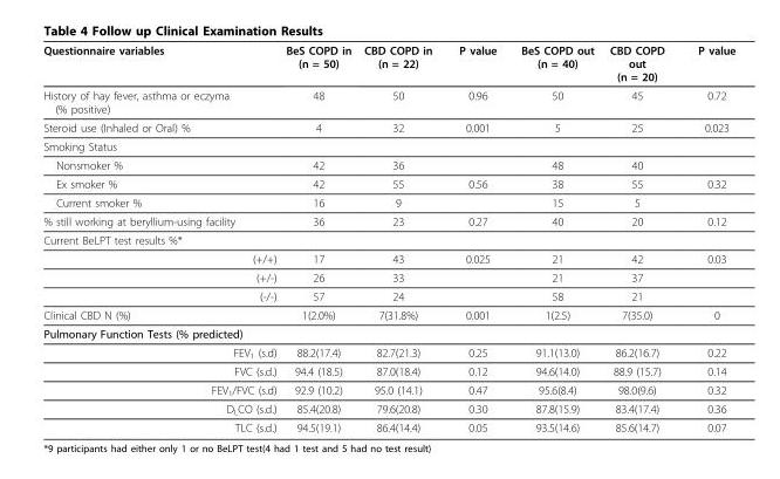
<table><thead><tr><td>Questionnaire variables</td><td>BeS COPD in (n = 50)</td><td>CBD COPD in (n = 22)</td><td>P value</td><td>BeS COPD out (n = 40)</td><td>CBD COPD out (n = 20)</td><td>P value</td></tr></thead><tbody><tr><td>History of hay fever, asthma or eczyma (% positive)</td><td>48</td><td>50</td><td>0.96</td><td>50</td><td>45</td><td>0.72</td></tr><tr><td>Steroid use (Inhaled or Oral) %</td><td>4</td><td>32</td><td>0.001</td><td>5</td><td>25</td><td>0.023</td></tr><tr><td colspan="7">Smoking Status</td></tr><tr><td>Nonsmoker %</td><td>42</td><td>36</td><td></td><td>48</td><td>40</td><td></td></tr><tr><td>Ex smoker %</td><td>42</td><td>55</td><td>0.56</td><td>38</td><td>55</td><td>0.32</td></tr><tr><td>Current smoker %</td><td>16</td><td>9</td><td></td><td>15</td><td>5</td><td></td></tr><tr><td>% still working at beryllium-using facility</td><td>36</td><td>23</td><td>0.27</td><td>40</td><td>20</td><td>0.12</td></tr><tr><td colspan="7">Current BeLPT test results %*</td></tr><tr><td>(+/+)</td><td>17</td><td>43</td><td>0.025</td><td>21</td><td>42</td><td>0.03</td></tr><tr><td>(+/-)</td><td>26</td><td>33</td><td></td><td>21</td><td>37</td><td></td></tr><tr><td>(-/-)</td><td>57</td><td>24</td><td></td><td>58</td><td>21</td><td></td></tr><tr><td>Clinical CBD N (%)</td><td>1(2.0%)</td><td>7(31.8%)</td><td>0.001</td><td>1(2.5)</td><td>7(35.0)</td><td>0</td></tr><tr><td colspan="7">Pulmonary Function Tests (% predicted)</td></tr><tr><td>FEV<sub>1</sub> (s.d)</td><td>88.2(17.4)</td><td>82.7(21.3)</td><td>0.25</td><td>91.1(13.0)</td><td>86.2(16.7)</td><td>0.22</td></tr><tr><td>FVC (s.d.)</td><td>94.4 (18.5)</td><td>87.0(18.4)</td><td>0.12</td><td>94.6(14.0)</td><td>88.9 (15.7)</td><td>0.14</td></tr><tr><td>FEV<sub>1</sub>/FVC (s.d)</td><td>92.9 (10.2)</td><td>95.0 (14.1)</td><td>0.47</td><td>95.6(8.4)</td><td>98.0(9.6)</td><td>0.32</td></tr><tr><td>D<sub>L</sub>CO (s.d.)</td><td>85.4(20.8)</td><td>79.6(20.8)</td><td>0.30</td><td>87.8(15.9)</td><td>83.4(17.4)</td><td>0.36</td></tr><tr><td>TLC (s.d.)</td><td>94.5(19.1)</td><td>86.4(14.4)</td><td>0.05</td><td>93.5(14.6)</td><td>85.6(14.7)</td><td>0.07</td></tr></tbody></table>